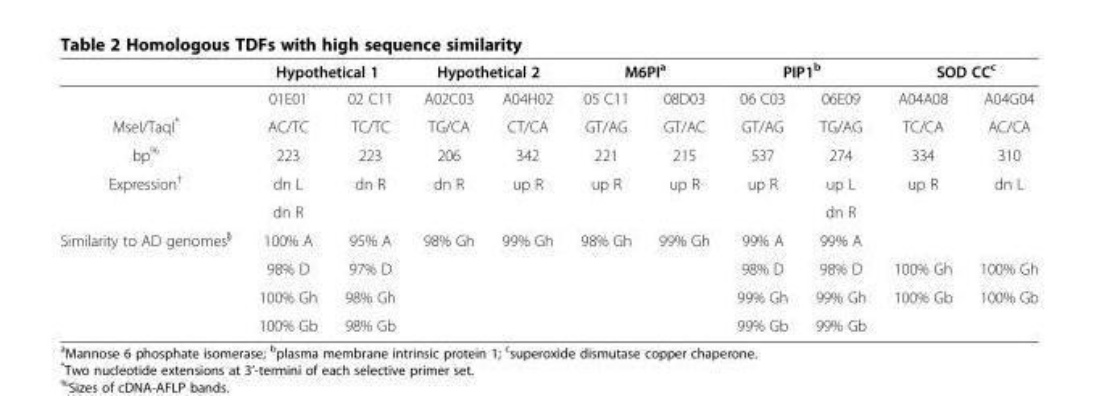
<table><thead><tr><td rowspan="2"></td><td colspan="2">Hypothetical 1</td><td colspan="2">Hypothetical 2</td><td colspan="2">M6PI<sup>a</sup></td><td colspan="2">PIP1<sup>b</sup></td><td colspan="2">SOD CC<sup>c</sup></td></tr><tr><td>01E01</td><td>02 C11</td><td>A02C03</td><td>A04H02</td><td>05 C11</td><td>08D03</td><td>06 C03</td><td>06E09</td><td>A04A08</td><td>A04G04</td></tr></thead><tbody><tr><td>MseI/TaqI*</td><td>AC/TC</td><td>TC/TC</td><td>TG/CA</td><td>CT/CA</td><td>GT/AG</td><td>GT/AC</td><td>GT/AG</td><td>TG/AG</td><td>TC/CA</td><td>AC/CA</td></tr><tr><td>bp<sup>%</sup></td><td>223</td><td>223</td><td>206</td><td>342</td><td>221</td><td>215</td><td>537</td><td>274</td><td>334</td><td>310</td></tr><tr><td rowspan="2">Expression<sup>†</sup></td><td>dn L</td><td>dn R</td><td>dn R</td><td>up R</td><td>up R</td><td>up R</td><td>up R</td><td>up L</td><td>up R</td><td>dn L</td></tr><tr><td>dn R</td><td></td><td></td><td></td><td></td><td></td><td></td><td>dn R</td><td></td><td></td></tr><tr><td rowspan="4">Similarity to AD genomes<sup>§</sup></td><td>100% A</td><td>95% A</td><td>98% Gh</td><td>99% Gh</td><td>98% Gh</td><td>99% Gh</td><td>99% A</td><td>99% A</td><td></td><td></td></tr><tr><td>98% D</td><td>97% D</td><td></td><td></td><td></td><td></td><td>98% D</td><td>98% D</td><td>100% Gh</td><td>100% Gh</td></tr><tr><td>100% Gh</td><td>98% Gh</td><td></td><td></td><td></td><td></td><td>99% Gh</td><td>99% Gh</td><td>100% Gb</td><td>100% Gb</td></tr><tr><td>100% Gb</td><td>98% Gb</td><td></td><td></td><td></td><td></td><td>99% Gb</td><td>99% Gb</td><td></td><td></td></tr></tbody></table>